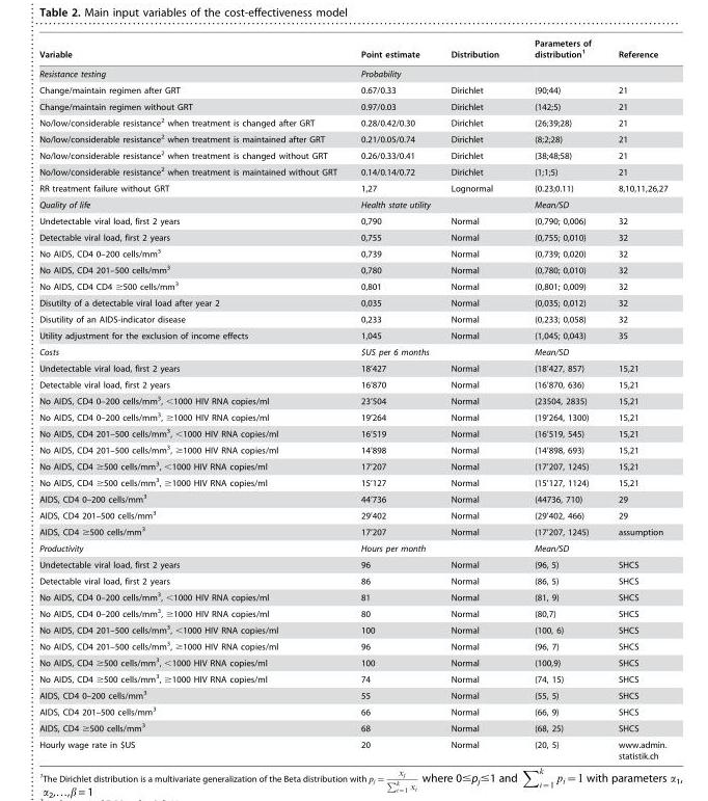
<table><thead><tr><td>Variable</td><td>Point estimate</td><td>Distribution</td><td>Parameters of distribution<sup>1</sup></td><td>Reference</td></tr></thead><tbody><tr><td>Resistance testing</td><td>Probability</td><td></td><td></td><td></td></tr><tr><td>Change/maintain regimen after GRT</td><td>0.67/0.33</td><td>Dirichlet</td><td>(90;44)</td><td>21</td></tr><tr><td>Change/maintain regimen without GRT</td><td>0.97/0.03</td><td>Dirichlet</td><td>(142;5)</td><td>21</td></tr><tr><td>No/low/considerable resistance<sup>2</sup> when treatment is changed after GRT</td><td>0.28/0.42/0.30</td><td>Dirichlet</td><td>(26;39;28)</td><td>21</td></tr><tr><td>No/low/considerable resistance<sup>2</sup> when treatment is maintained after GRT</td><td>0.21/0.05/0.74</td><td>Dirichlet</td><td>(8;2;28)</td><td>21</td></tr><tr><td>No/low/considerable resistance<sup>2</sup> when treatment is changed without GRT</td><td>0.26/0.33/0.41</td><td>Dirichlet</td><td>(38;48;58)</td><td>21</td></tr><tr><td>No/low/considerable resistance<sup>2</sup> when treatment is maintained without GRT</td><td>0.14/0.14/0.72</td><td>Dirichlet</td><td>(1;1;5)</td><td>21</td></tr><tr><td>RR treatment failure without GRT</td><td>1,27</td><td>Lognormal</td><td>(0.23;0.11)</td><td>8,10,11,26,27</td></tr><tr><td>Quality of life</td><td>Health state utility</td><td></td><td>Mean/SD</td><td></td></tr><tr><td>Undetectable viral load, first 2 years</td><td>0,790</td><td>Normal</td><td>(0,790; 0,006)</td><td>32</td></tr><tr><td>Detectable viral load, first 2 years</td><td>0,755</td><td>Normal</td><td>(0,755; 0,010)</td><td>32</td></tr><tr><td>No AIDS, CD4 0–200 cells/mm<sup>3</sup></td><td>0,739</td><td>Normal</td><td>(0,739; 0,020)</td><td>32</td></tr><tr><td>No AIDS, CD4 201–500 cells/mm<sup>3</sup></td><td>0,780</td><td>Normal</td><td>(0,780; 0,010)</td><td>32</td></tr><tr><td>No AIDS, CD4 CD4 ≥500 cells/mm<sup>3</sup></td><td>0,801</td><td>Normal</td><td>(0,801; 0,009)</td><td>32</td></tr><tr><td>Disutilty of a detectable viral load after year 2</td><td>0,035</td><td>Normal</td><td>(0,035; 0,012)</td><td>32</td></tr><tr><td>Disutility of an AIDS-indicator disease</td><td>0,233</td><td>Normal</td><td>(0,233; 0,058)</td><td>32</td></tr><tr><td>Utility adjustment for the exclusion of income effects</td><td>1,045</td><td>Normal</td><td>(1,045; 0,043)</td><td>35</td></tr><tr><td>Costs</td><td>$US per 6 months</td><td></td><td>Mean/SD</td><td></td></tr><tr><td>Undetectable viral load, first 2 years</td><td>18’427</td><td>Normal</td><td>(18’427, 857)</td><td>15,21</td></tr><tr><td>Detectable viral load, first 2 years</td><td>16’870</td><td>Normal</td><td>(16’870, 636)</td><td>15,21</td></tr><tr><td>No AIDS, CD4 0–200 cells/mm<sup>3</sup>, &lt;1000 HIV RNA copies/ml</td><td>23’504</td><td>Normal</td><td>(23504, 2835)</td><td>15,21</td></tr><tr><td>No AIDS, CD4 0–200 cells/mm<sup>3</sup>, ≥1000 HIV RNA copies/ml</td><td>19’264</td><td>Normal</td><td>(19’264, 1300)</td><td>15,21</td></tr><tr><td>No AIDS, CD4 201–500 cells/mm<sup>3</sup>, &lt;1000 HIV RNA copies/ml</td><td>16’519</td><td>Normal</td><td>(16’519, 545)</td><td>15,21</td></tr><tr><td>No AIDS, CD4 201–500 cells/mm<sup>3</sup>, ≥1000 HIV RNA copies/ml</td><td>14’898</td><td>Normal</td><td>(14’898, 693)</td><td>15,21</td></tr><tr><td>No AIDS, CD4 ≥500 cells/mm<sup>3</sup>, &lt;1000 HIV RNA copies/ml</td><td>17’207</td><td>Normal</td><td>(17’207, 1245)</td><td>15,21</td></tr><tr><td>No AIDS, CD4 ≥500 cells/mm<sup>3</sup>, ≥1000 HIV RNA copies/ml</td><td>15’127</td><td>Normal</td><td>(15’127, 1124)</td><td>15,21</td></tr><tr><td>AIDS, CD4 0–200 cells/mm<sup>3</sup></td><td>44’736</td><td>Normal</td><td>(44736, 710)</td><td>29</td></tr><tr><td>AIDS, CD4 201–500 cells/mm<sup>3</sup></td><td>29’402</td><td>Normal</td><td>(29’402, 466)</td><td>29</td></tr><tr><td>AIDS, CD4 ≥500 cells/mm<sup>3</sup></td><td>17’207</td><td>Normal</td><td>(17’207, 1245)</td><td>assumption</td></tr><tr><td>Productivity</td><td>Hours per month</td><td></td><td>Mean/SD</td><td></td></tr><tr><td>Undetectable viral load, first 2 years</td><td>96</td><td>Normal</td><td>(96, 5)</td><td>SHCS</td></tr><tr><td>Detectable viral load, first 2 years</td><td>86</td><td>Normal</td><td>(86, 5)</td><td>SHCS</td></tr><tr><td>No AIDS, CD4 0–200 cells/mm<sup>3</sup>, &lt;1000 HIV RNA copies/ml</td><td>81</td><td>Normal</td><td>(81, 9)</td><td>SHCS</td></tr><tr><td>No AIDS, CD4 0–200 cells/mm<sup>3</sup>, ≥1000 HIV RNA copies/ml</td><td>80</td><td>Normal</td><td>(80,7)</td><td>SHCS</td></tr><tr><td>No AIDS, CD4 201–500 cells/mm<sup>3</sup>, &lt;1000 HIV RNA copies/ml</td><td>100</td><td>Normal</td><td>(100, 6)</td><td>SHCS</td></tr><tr><td>No AIDS, CD4 201–500 cells/mm<sup>3</sup>, ≥1000 HIV RNA copies/ml</td><td>96</td><td>Normal</td><td>(96, 7)</td><td>SHCS</td></tr><tr><td>No AIDS, CD4 ≥500 cells/mm<sup>3</sup>, &lt;1000 HIV RNA copies/ml</td><td>100</td><td>Normal</td><td>(100,9)</td><td>SHCS</td></tr><tr><td>No AIDS, CD4 ≥500 cells/mm<sup>3</sup>, ≥1000 HIV RNA copies/ml</td><td>74</td><td>Normal</td><td>(74, 15)</td><td>SHCS</td></tr><tr><td>AIDS, CD4 0–200 cells/mm<sup>3</sup></td><td>55</td><td>Normal</td><td>(55, 5)</td><td>SHCS</td></tr><tr><td>AIDS, CD4 201–500 cells/mm<sup>3</sup></td><td>66</td><td>Normal</td><td>(66, 9)</td><td>SHCS</td></tr><tr><td>AIDS, CD4 ≥500 cells/mm<sup>3</sup></td><td>68</td><td>Normal</td><td>(68, 25)</td><td>SHCS</td></tr><tr><td>Hourly wage rate in $US</td><td>20</td><td>Normal</td><td>(20, 5)</td><td>www.admin. statistik.ch</td></tr></tbody></table>